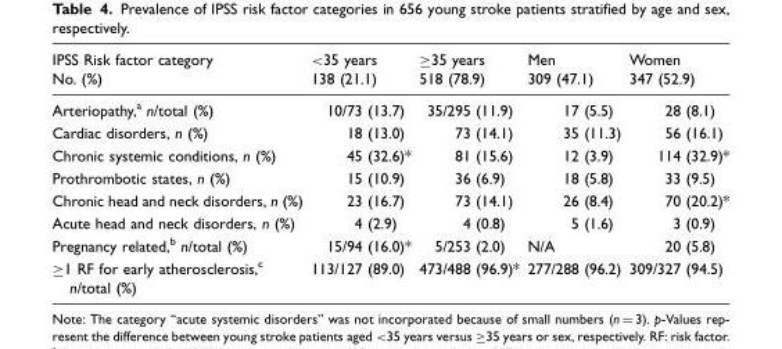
<table><thead><tr><td>IPSS Risk factor category No. (%)</td><td>&lt;35 years 138 (21.1)</td><td>≥35 years 518 (78.9)</td><td>Men 309 (47.1)</td><td>Women 347 (52.9)</td></tr></thead><tbody><tr><td>Arteriopathy,<sup>a</sup> n/total (%)</td><td>10/73 (13.7)</td><td>35/295 (11.9)</td><td>17 (5.5)</td><td>28 (8.1)</td></tr><tr><td>Cardiac disorders, n (%)</td><td>18 (13.0)</td><td>73 (14.1)</td><td>35 (11.3)</td><td>56 (16.1)</td></tr><tr><td>Chronic systemic conditions, n (%)</td><td>45 (32.6)*</td><td>81 (15.6)</td><td>12 (3.9)</td><td>114 (32.9)*</td></tr><tr><td>Prothrombotic states, n (%)</td><td>15 (10.9)</td><td>36 (6.9)</td><td>18 (5.8)</td><td>33 (9.5)</td></tr><tr><td>Chronic head and neck disorders, n (%)</td><td>23 (16.7)</td><td>73 (14.1)</td><td>26 (8.4)</td><td>70 (20.2)*</td></tr><tr><td>Acute head and neck disorders, n (%)</td><td>4 (2.9)</td><td>4 (0.8)</td><td>5 (1.6)</td><td>3 (0.9)</td></tr><tr><td>Pregnancy related,<sup>b</sup> n/total (%)</td><td>15/94 (16.0)*</td><td>5/253 (2.0)</td><td>N/A</td><td>20 (5.8)</td></tr><tr><td>≥1 RF for early atherosclerosis,<sup>c</sup> n/total (%)</td><td>113/127 (89.0)</td><td>473/488 (96.9)*</td><td>277/288 (96.2)</td><td>309/327 (94.5)</td></tr></tbody></table>